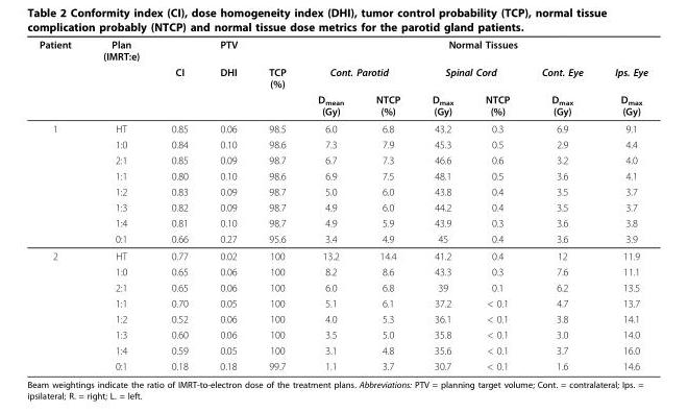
<table><thead><tr><td rowspan="3">Patient</td><td rowspan="3">Plan (IMRT:e)</td><td colspan="3">PTV</td><td colspan="6">Normal Tissues</td></tr><tr><td rowspan="2">CI</td><td rowspan="2">DHI</td><td rowspan="2">TCP (%)</td><td colspan="2">Cont. Parotid</td><td colspan="2">Spinal Cord</td><td rowspan="2">Cont. Eye D<sub>max</sub> (Gy)</td><td rowspan="2">Ips. Eye D<sub>max</sub> (Gy)</td></tr><tr><td>D<sub>mean</sub> (Gy)</td><td>NTCP (%)</td><td>D<sub>max</sub> (Gy)</td><td>NTCP (%)</td></tr></thead><tbody><tr><td rowspan="8">1</td><td>HT</td><td>0.85</td><td>0.06</td><td>98.5</td><td>6.0</td><td>6.8</td><td>43.2</td><td>0.3</td><td>6.9</td><td>9.1</td></tr><tr><td>1:0</td><td>0.84</td><td>0.10</td><td>98.6</td><td>7.3</td><td>7.9</td><td>45.3</td><td>0.5</td><td>2.9</td><td>4.4</td></tr><tr><td>2:1</td><td>0.85</td><td>0.09</td><td>98.7</td><td>6.7</td><td>7.3</td><td>46.6</td><td>0.6</td><td>3.2</td><td>4.0</td></tr><tr><td>1:1</td><td>0.80</td><td>0.10</td><td>98.6</td><td>6.9</td><td>7.5</td><td>48.1</td><td>0.5</td><td>3.6</td><td>4.1</td></tr><tr><td>1:2</td><td>0.83</td><td>0.09</td><td>98.7</td><td>5.0</td><td>6.0</td><td>43.8</td><td>0.4</td><td>3.5</td><td>3.7</td></tr><tr><td>1:3</td><td>0.82</td><td>0.09</td><td>98.7</td><td>4.9</td><td>6.0</td><td>44.2</td><td>0.4</td><td>3.5</td><td>3.7</td></tr><tr><td>1:4</td><td>0.81</td><td>0.10</td><td>98.7</td><td>4.9</td><td>5.9</td><td>43.9</td><td>0.3</td><td>3.6</td><td>3.8</td></tr><tr><td>0:1</td><td>0.66</td><td>0.27</td><td>95.6</td><td>3.4</td><td>4.9</td><td>45</td><td>0.4</td><td>3.6</td><td>3.9</td></tr><tr><td rowspan="8">2</td><td>HT</td><td>0.77</td><td>0.02</td><td>100</td><td>13.2</td><td>14.4</td><td>41.2</td><td>0.4</td><td>12</td><td>11.9</td></tr><tr><td>1:0</td><td>0.65</td><td>0.06</td><td>100</td><td>8.2</td><td>8.6</td><td>43.3</td><td>0.3</td><td>7.6</td><td>11.1</td></tr><tr><td>2:1</td><td>0.65</td><td>0.06</td><td>100</td><td>6.0</td><td>6.8</td><td>39</td><td>0.1</td><td>6.2</td><td>13.5</td></tr><tr><td>1:1</td><td>0.70</td><td>0.05</td><td>100</td><td>5.1</td><td>6.1</td><td>37.2</td><td>&lt; 0.1</td><td>4.7</td><td>13.7</td></tr><tr><td>1:2</td><td>0.52</td><td>0.06</td><td>100</td><td>4.0</td><td>5.3</td><td>36.1</td><td>&lt; 0.1</td><td>3.8</td><td>14.1</td></tr><tr><td>1:3</td><td>0.60</td><td>0.06</td><td>100</td><td>3.5</td><td>5.0</td><td>35.8</td><td>&lt; 0.1</td><td>3.0</td><td>14.0</td></tr><tr><td>1:4</td><td>0.59</td><td>0.05</td><td>100</td><td>3.1</td><td>4.8</td><td>35.6</td><td>&lt; 0.1</td><td>3.7</td><td>16.0</td></tr><tr><td>0:1</td><td>0.18</td><td>0.18</td><td>99.7</td><td>1.1</td><td>3.7</td><td>30.7</td><td>&lt; 0.1</td><td>1.6</td><td>14.6</td></tr></tbody></table>